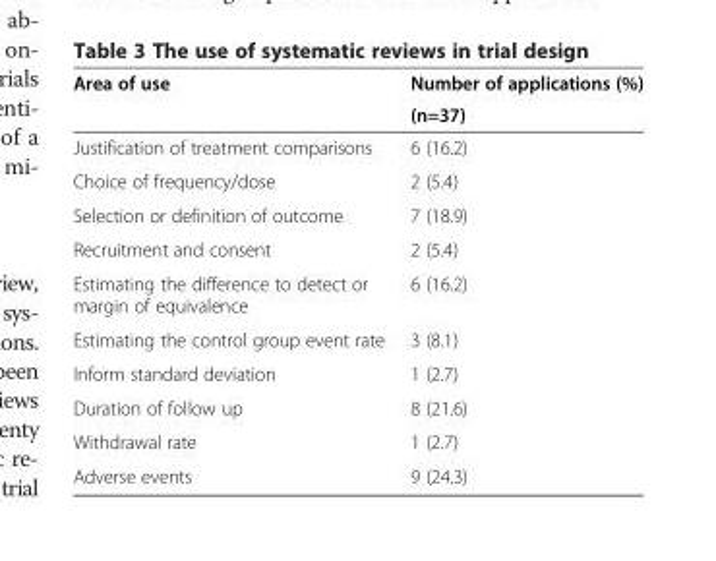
<table><thead><tr><td rowspan="2">Area of use</td><td rowspan="2">Number of applications (%) (n=37)</td></tr><tr></tr></thead><tbody><tr><td>Justification of treatment comparisons</td><td>6 (16.2)</td></tr><tr><td>Choice of frequency/dose</td><td>2 (5.4)</td></tr><tr><td>Selection or definition of outcome</td><td>7 (18.9)</td></tr><tr><td>Recruitment and consent</td><td>2 (5.4)</td></tr><tr><td>Estimating the difference to detect or margin of equivalence</td><td>6 (16.2)</td></tr><tr><td>Estimating the control group event rate</td><td>3 (8.1)</td></tr><tr><td>Inform standard deviation</td><td>1 (2.7)</td></tr><tr><td>Duration of follow up</td><td>8 (21.6)</td></tr><tr><td>Withdrawal rate</td><td>1 (2.7)</td></tr><tr><td>Adverse events</td><td>9 (24.3)</td></tr></tbody></table>